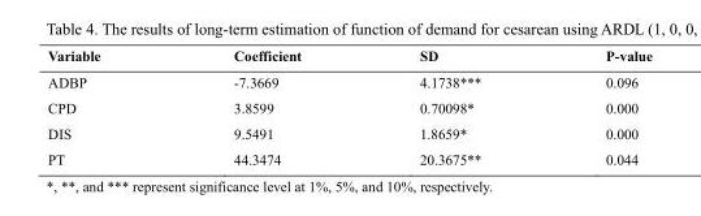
<table><thead><tr><td>Variable</td><td>Coefficient</td><td>SD</td><td>P-value</td></tr></thead><tbody><tr><td>ADBP</td><td>-7.3669</td><td>4.1738***</td><td>0.096</td></tr><tr><td>CPD</td><td>3.8599</td><td>0.70098*</td><td>0.000</td></tr><tr><td>DIS</td><td>9.5491</td><td>1.8659*</td><td>0.000</td></tr><tr><td>PT</td><td>44.3474</td><td>20.3675**</td><td>0.044</td></tr></tbody></table>